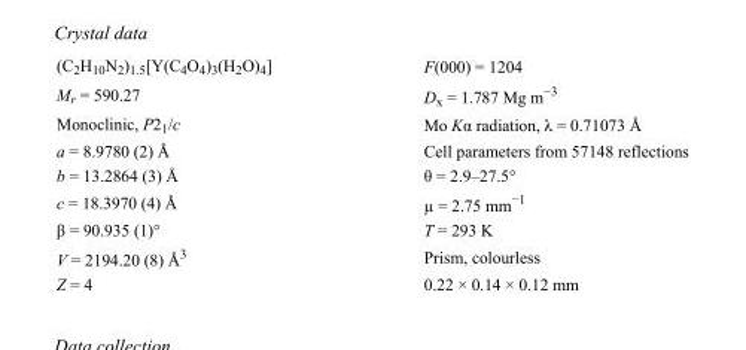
<table><tbody><tr><td>(C<sub>2</sub>H<sub>10</sub>N<sub>2</sub>)<sub>1.5</sub>[Y(C<sub>4</sub>O<sub>4</sub>)<sub>3</sub>(H<sub>2</sub>O)<sub>4</sub>]</td><td>F(000) = 1204</td></tr><tr><td>M<sub>r</sub> = 590.27</td><td>D<sub>x</sub> = 1.787 Mg m<sup>−3</sup></td></tr><tr><td>Monoclinic, P2<sub>1</sub>/c</td><td>Mo Kα radiation, λ = 0.71073 Å</td></tr><tr><td>a = 8.9780 (2) Å</td><td>Cell parameters from 57148 reflections</td></tr><tr><td>b = 13.2864 (3) Å</td><td>θ = 2.9–27.5°</td></tr><tr><td>c = 18.3970 (4) Å</td><td>µ = 2.75 mm<sup>−1</sup></td></tr><tr><td>β = 90.935 (1)°</td><td>T = 293 K</td></tr><tr><td>V = 2194.20 (8) Å<sup>3</sup></td><td>Prism, colourless</td></tr><tr><td>Z = 4</td><td>0.22 × 0.14 × 0.12 mm</td></tr></tbody></table>